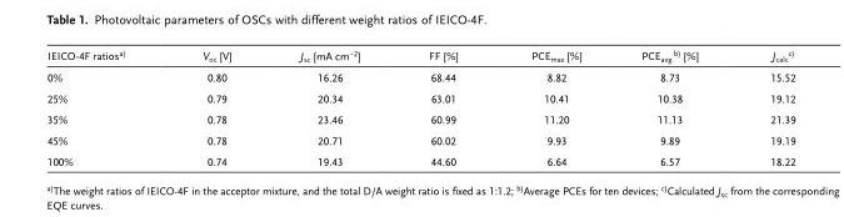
<table><thead><tr><td>IEICO-4F ratiosa)</td><td>V<sub>oc</sub> [V]</td><td>J<sub>sc</sub> [mA cm<sup>−2</sup>]</td><td>FF [%]</td><td>PCE<sub>max</sub> [%]</td><td>PCE<sub>avg.</sub>b) [%]</td><td>J<sub>calc</sub>c)</td></tr></thead><tbody><tr><td>0%</td><td>0.80</td><td>16.26</td><td>68.44</td><td>8.82</td><td>8.73</td><td>15.52</td></tr><tr><td>25%</td><td>0.79</td><td>20.34</td><td>63.01</td><td>10.41</td><td>10.38</td><td>19.12</td></tr><tr><td>35%</td><td>0.78</td><td>23.46</td><td>60.99</td><td>11.20</td><td>11.13</td><td>21.39</td></tr><tr><td>45%</td><td>0.78</td><td>20.71</td><td>60.02</td><td>9.93</td><td>9.89</td><td>19.19</td></tr><tr><td>100%</td><td>0.74</td><td>19.43</td><td>44.60</td><td>6.64</td><td>6.57</td><td>18.22</td></tr></tbody></table>